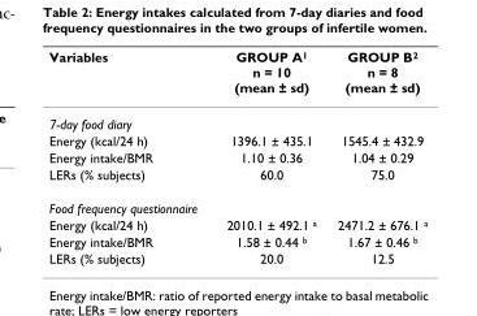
<table><thead><tr><td>Variables</td><td>GROUP A<sup>1</sup> n = 10 (mean ± sd)</td><td>GROUP B<sup>2</sup> n = 8 (mean ± sd)</td></tr></thead><tbody><tr><td colspan="3">7-day food diary</td></tr><tr><td>Energy (kcal/24 h)</td><td>1396.1 ± 435.1</td><td>1545.4 ± 432.9</td></tr><tr><td>Energy intake/BMR</td><td>1.10 ± 0.36</td><td>1.04 ± 0.29</td></tr><tr><td>LERs (% subjects)</td><td>60.0</td><td>75.0</td></tr><tr><td colspan="3">Food frequency questionnaire</td></tr><tr><td>Energy (kcal/24 h)</td><td>2010.1 ± 492.1 <sup>a</sup></td><td>2471.2 ± 676.1 <sup>a</sup></td></tr><tr><td>Energy intake/BMR</td><td>1.58 ± 0.44 <sup>b</sup></td><td>1.67 ± 0.46 <sup>b</sup></td></tr><tr><td>LERs (% subjects)</td><td>20.0</td><td>12.5</td></tr></tbody></table>